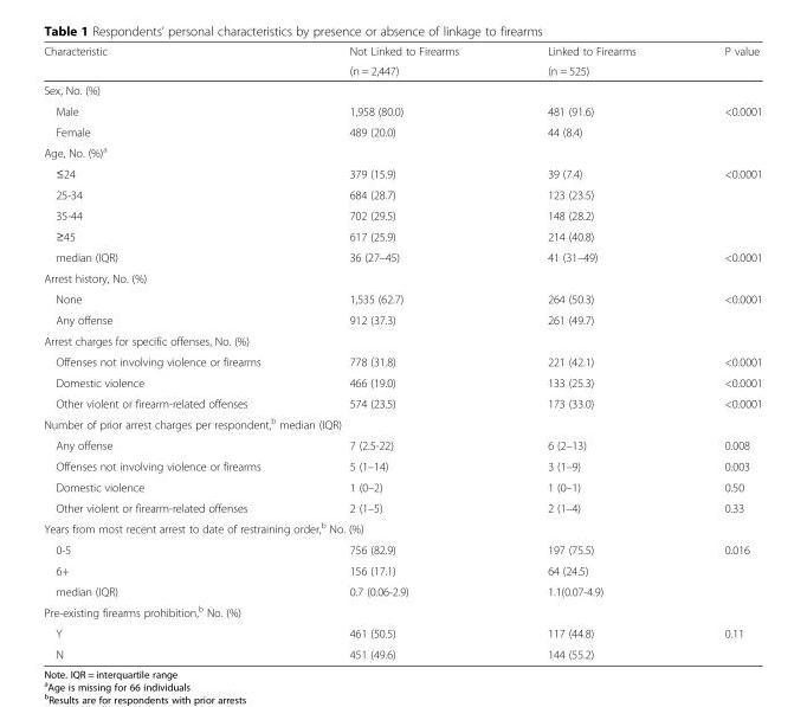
<table><thead><tr><td rowspan="2">Characteristic</td><td rowspan="2">Not Linked to Firearms (n = 2,447)</td><td rowspan="2">Linked to Firearms (n = 525)</td><td rowspan="2">P value</td></tr><tr></tr></thead><tbody><tr><td colspan="4">Sex, No. (%)</td></tr><tr><td>Male</td><td>1,958 (80.0)</td><td>481 (91.6)</td><td>&lt;0.0001</td></tr><tr><td>Female</td><td>489 (20.0)</td><td>44 (8.4)</td><td></td></tr><tr><td colspan="4">Age, No. (%)<sup>a</sup></td></tr><tr><td>≤24</td><td>379 (15.9)</td><td>39 (7.4)</td><td>&lt;0.0001</td></tr><tr><td>25-34</td><td>684 (28.7)</td><td>123 (23.5)</td><td></td></tr><tr><td>35-44</td><td>702 (29.5)</td><td>148 (28.2)</td><td></td></tr><tr><td>≥45</td><td>617 (25.9)</td><td>214 (40.8)</td><td></td></tr><tr><td>median (IQR)</td><td>36 (27–45)</td><td>41 (31–49)</td><td>&lt;0.0001</td></tr><tr><td colspan="4">Arrest history, No. (%)</td></tr><tr><td>None</td><td>1,535 (62.7)</td><td>264 (50.3)</td><td>&lt;0.0001</td></tr><tr><td>Any offense</td><td>912 (37.3)</td><td>261 (49.7)</td><td></td></tr><tr><td colspan="4">Arrest charges for specific offenses, No. (%)</td></tr><tr><td>Offenses not involving violence or firearms</td><td>778 (31.8)</td><td>221 (42.1)</td><td>&lt;0.0001</td></tr><tr><td>Domestic violence</td><td>466 (19.0)</td><td>133 (25.3)</td><td>&lt;0.0001</td></tr><tr><td>Other violent or firearm-related offenses</td><td>574 (23.5)</td><td>173 (33.0)</td><td>&lt;0.0001</td></tr><tr><td colspan="4">Number of prior arrest charges per respondent,<sup>b</sup> median (IQR)</td></tr><tr><td>Any offense</td><td>7 (2.5-22)</td><td>6 (2–13)</td><td>0.008</td></tr><tr><td>Offenses not involving violence or firearms</td><td>5 (1–14)</td><td>3 (1–9)</td><td>0.003</td></tr><tr><td>Domestic violence</td><td>1 (0–2)</td><td>1 (0–1)</td><td>0.50</td></tr><tr><td>Other violent or firearm-related offenses</td><td>2 (1–5)</td><td>2 (1–4)</td><td>0.33</td></tr><tr><td colspan="4">Years from most recent arrest to date of restraining order,<sup>b</sup> No. (%)</td></tr><tr><td>0-5</td><td>756 (82.9)</td><td>197 (75.5)</td><td>0.016</td></tr><tr><td>6+</td><td>156 (17.1)</td><td>64 (24.5)</td><td></td></tr><tr><td>median (IQR)</td><td>0.7 (0.06-2.9)</td><td>1.1(0.07-4.9)</td><td></td></tr><tr><td colspan="4">Pre-existing firearms prohibition,<sup>b</sup> No. (%)</td></tr><tr><td>Y</td><td>461 (50.5)</td><td>117 (44.8)</td><td>0.11</td></tr><tr><td>N</td><td>451 (49.6)</td><td>144 (55.2)</td><td></td></tr></tbody></table>